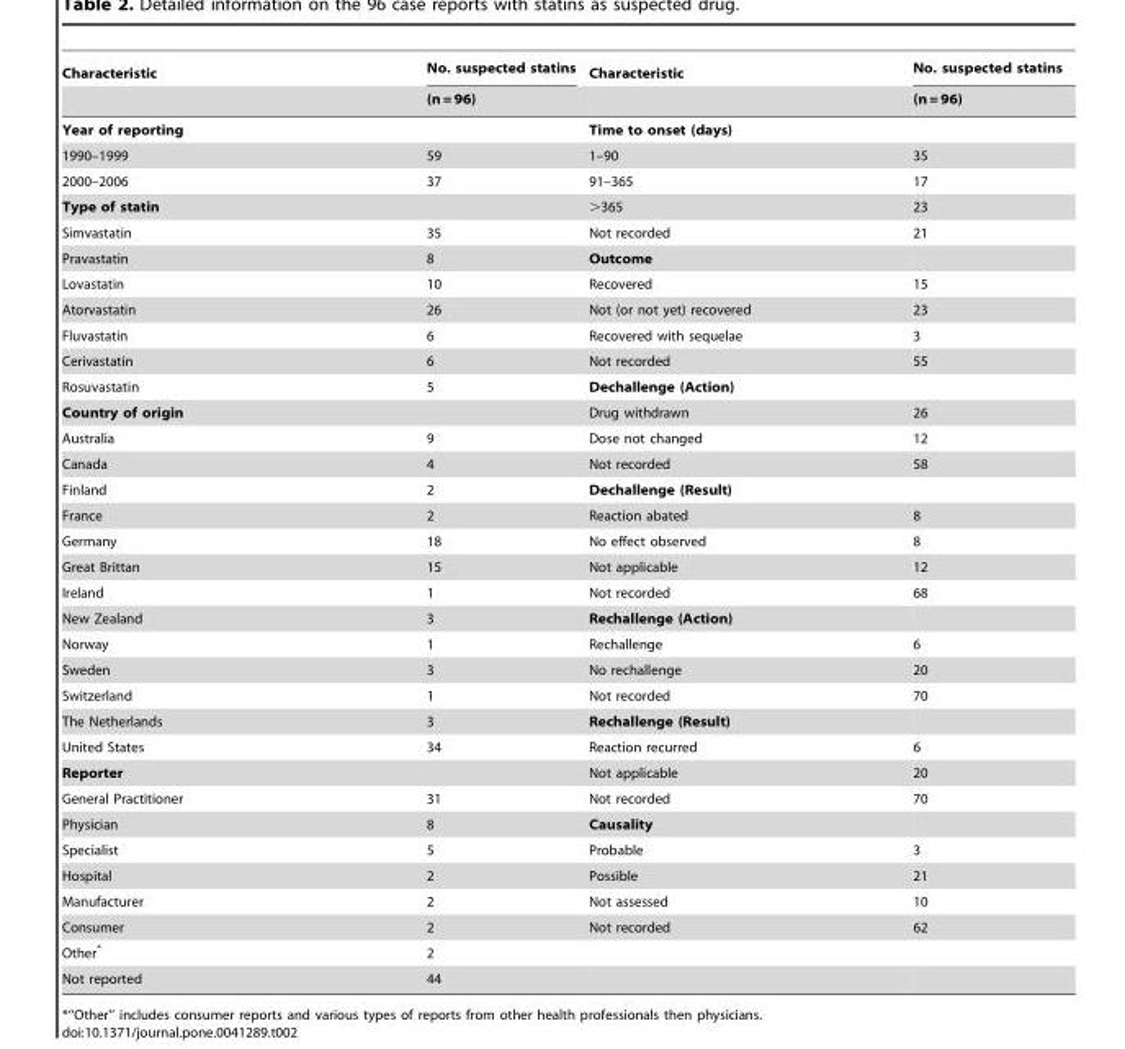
<table><thead><tr><td rowspan="2">Characteristic</td><td rowspan="2">No. suspected statins (n = 96)</td><td rowspan="2">Characteristic</td><td rowspan="2">No. suspected statins (n = 96)</td></tr><tr></tr></thead><tbody><tr><td>Year of reporting</td><td></td><td>Time to onset (days)</td><td></td></tr><tr><td>1990–1999</td><td>59</td><td>1–90</td><td>35</td></tr><tr><td>2000–2006</td><td>37</td><td>91–365</td><td>17</td></tr><tr><td>Type of statin</td><td></td><td>&gt;365</td><td>23</td></tr><tr><td>Simvastatin</td><td>35</td><td>Not recorded</td><td>21</td></tr><tr><td>Pravastatin</td><td>8</td><td>Outcome</td><td></td></tr><tr><td>Lovastatin</td><td>10</td><td>Recovered</td><td>15</td></tr><tr><td>Atorvastatin</td><td>26</td><td>Not (or not yet) recovered</td><td>23</td></tr><tr><td>Fluvastatin</td><td>6</td><td>Recovered with sequelae</td><td>3</td></tr><tr><td>Cerivastatin</td><td>6</td><td>Not recorded</td><td>55</td></tr><tr><td>Rosuvastatin</td><td>5</td><td>Dechallenge (Action)</td><td></td></tr><tr><td>Country of origin</td><td></td><td>Drug withdrawn</td><td>26</td></tr><tr><td>Australia</td><td>9</td><td>Dose not changed</td><td>12</td></tr><tr><td>Canada</td><td>4</td><td>Not recorded</td><td>58</td></tr><tr><td>Finland</td><td>2</td><td>Dechallenge (Result)</td><td></td></tr><tr><td>France</td><td>2</td><td>Reaction abated</td><td>8</td></tr><tr><td>Germany</td><td>18</td><td>No effect observed</td><td>8</td></tr><tr><td>Great Brittan</td><td>15</td><td>Not applicable</td><td>12</td></tr><tr><td>Ireland</td><td>1</td><td>Not recorded</td><td>68</td></tr><tr><td>New Zealand</td><td>3</td><td>Rechallenge (Action)</td><td></td></tr><tr><td>Norway</td><td>1</td><td>Rechallenge</td><td>6</td></tr><tr><td>Sweden</td><td>3</td><td>No rechallenge</td><td>20</td></tr><tr><td>Switzerland</td><td>1</td><td>Not recorded</td><td>70</td></tr><tr><td>The Netherlands</td><td>3</td><td>Rechallenge (Result)</td><td></td></tr><tr><td>United States</td><td>34</td><td>Reaction recurred</td><td>6</td></tr><tr><td>Reporter</td><td></td><td>Not applicable</td><td>20</td></tr><tr><td>General Practitioner</td><td>31</td><td>Not recorded</td><td>70</td></tr><tr><td>Physician</td><td>8</td><td>Causality</td><td></td></tr><tr><td>Specialist</td><td>5</td><td>Probable</td><td>3</td></tr><tr><td>Hospital</td><td>2</td><td>Possible</td><td>21</td></tr><tr><td>Manufacturer</td><td>2</td><td>Not assessed</td><td>10</td></tr><tr><td>Consumer</td><td>2</td><td>Not recorded</td><td>62</td></tr><tr><td>Other*</td><td>2</td><td></td><td></td></tr><tr><td>Not reported</td><td>44</td><td></td><td></td></tr></tbody></table>